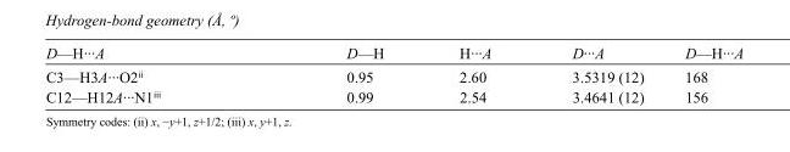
<table><tbody><tr><td>D—H···A</td><td>D—H</td><td>H···A</td><td>D···A</td><td>D—H···A</td></tr><tr><td>C3—H3A···O2<sup>ii</sup></td><td>0.95</td><td>2.60</td><td>3.5319 (12)</td><td>168</td></tr><tr><td>C12—H12A···N1<sup>iii</sup></td><td>0.99</td><td>2.54</td><td>3.4641 (12)</td><td>156</td></tr></tbody></table>